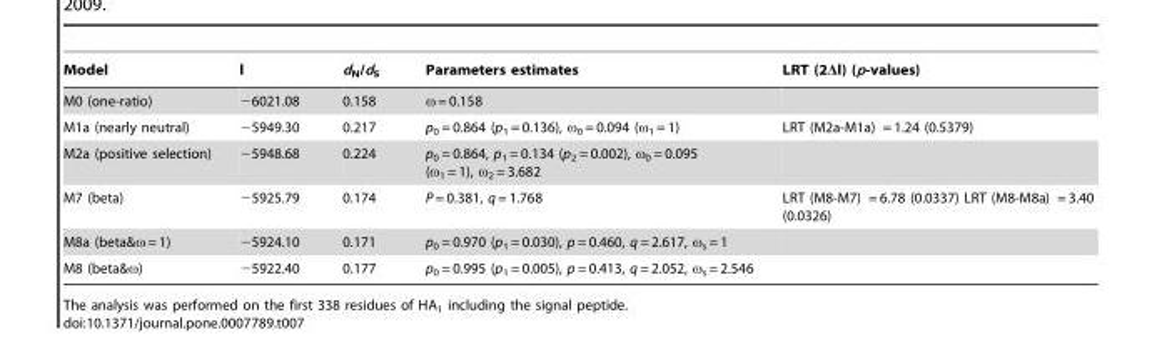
<table><thead><tr><td>Model</td><td>l</td><td>d<sub>N</sub>/d<sub>S</sub></td><td>Parameters estimates</td><td>LRT (2Δl) (p-values)</td></tr></thead><tbody><tr><td>M0 (one-ratio)</td><td>−6021.08</td><td>0.158</td><td>ω = 0.158</td><td></td></tr><tr><td>M1a (nearly neutral)</td><td>−5949.30</td><td>0.217</td><td>p<sub>0</sub> = 0.864 (p<sub>1</sub> = 0.136), ω<sub>0</sub> = 0.094 (ω<sub>1</sub> = 1)</td><td>LRT (M2a-M1a) = 1.24 (0.5379)</td></tr><tr><td>M2a (positive selection)</td><td>−5948.68</td><td>0.224</td><td>p<sub>0</sub> = 0.864, p<sub>1</sub> = 0.134 (p<sub>2</sub> = 0.002), ω<sub>0</sub> = 0.095 (ω<sub>1</sub> = 1), ω<sub>2</sub> = 3.682</td><td></td></tr><tr><td>M7 (beta)</td><td>−5925.79</td><td>0.174</td><td>P = 0.381, q = 1.768</td><td>LRT (M8-M7) = 6.78 (0.0337) LRT (M8-M8a) = 3.40 (0.0326)</td></tr><tr><td>M8a (beta&amp;ω = 1)</td><td>−5924.10</td><td>0.171</td><td>p<sub>0</sub> = 0.970 (p<sub>1</sub> = 0.030), p = 0.460, q = 2.617, ω<sub>s</sub> = 1</td><td></td></tr><tr><td>M8 (beta&amp;ω)</td><td>−5922.40</td><td>0.177</td><td>p<sub>0</sub> = 0.995 (p<sub>1</sub> = 0.005), p = 0.413, q = 2.052, ω<sub>s</sub> = 2.546</td><td></td></tr></tbody></table>